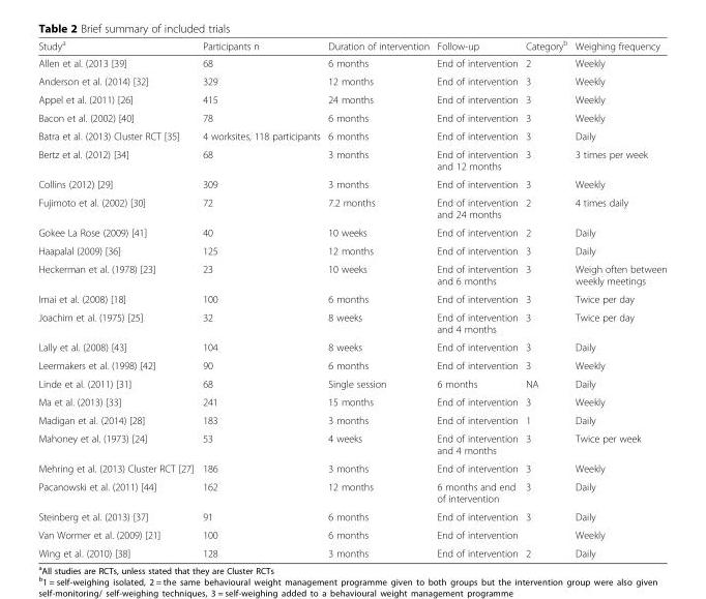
<table><thead><tr><td>Study<sup>a</sup></td><td>Participants n</td><td>Duration of intervention</td><td>Follow-up</td><td>Category<sup>b</sup></td><td>Weighing frequency</td></tr></thead><tbody><tr><td>Allen et al. (2013 [39]</td><td>68</td><td>6 months</td><td>End of intervention</td><td>2</td><td>Weekly</td></tr><tr><td>Anderson et al. (2014) [32]</td><td>329</td><td>12 months</td><td>End of intervention</td><td>3</td><td>Weekly</td></tr><tr><td>Appel et al. (2011) [26]</td><td>415</td><td>24 months</td><td>End of intervention</td><td>3</td><td>Weekly</td></tr><tr><td>Bacon et al. (2002) [40]</td><td>78</td><td>6 months</td><td>End of intervention</td><td>3</td><td>Weekly</td></tr><tr><td>Batra et al. (2013) Cluster RCT [35]</td><td>4 worksites, 118 participants</td><td>6 months</td><td>End of intervention</td><td>3</td><td>Daily</td></tr><tr><td>Bertz et al. (2012) [34]</td><td>68</td><td>3 months</td><td>End of intervention and 12 months</td><td>3</td><td>3 times per week</td></tr><tr><td>Collins (2012) [29]</td><td>309</td><td>3 months</td><td>End of intervention</td><td>3</td><td>Weekly</td></tr><tr><td>Fujimoto et al. (2002) [30]</td><td>72</td><td>7.2 months</td><td>End of intervention and 24 months</td><td>2</td><td>4 times daily</td></tr><tr><td>Gokee La Rose (2009) [41]</td><td>40</td><td>10 weeks</td><td>End of intervention</td><td>2</td><td>Daily</td></tr><tr><td>Haapalal (2009) [36]</td><td>125</td><td>12 months</td><td>End of intervention</td><td>3</td><td>Daily</td></tr><tr><td>Heckerman et al. (1978) [23]</td><td>23</td><td>10 weeks</td><td>End of intervention and 6 months</td><td>3</td><td>Weigh often between weekly meetings</td></tr><tr><td>Imai et al. (2008) [18]</td><td>100</td><td>6 months</td><td>End of intervention</td><td>3</td><td>Twice per day</td></tr><tr><td>Joachim et al. (1975) [25]</td><td>32</td><td>8 weeks</td><td>End of intervention and 4 months</td><td>3</td><td>Twice per day</td></tr><tr><td>Lally et al. (2008) [43]</td><td>104</td><td>8 weeks</td><td>End of intervention</td><td>3</td><td>Daily</td></tr><tr><td>Leermakers et al. (1998) [42]</td><td>90</td><td>6 months</td><td>End of intervention</td><td>3</td><td>Weekly</td></tr><tr><td>Linde et al. (2011) [31]</td><td>68</td><td>Single session</td><td>6 months</td><td>NA</td><td>Daily</td></tr><tr><td>Ma et al. (2013) [33]</td><td>241</td><td>15 months</td><td>End of intervention</td><td>3</td><td>Weekly</td></tr><tr><td>Madigan et al. (2014) [28]</td><td>183</td><td>3 months</td><td>End of intervention</td><td>1</td><td>Daily</td></tr><tr><td>Mahoney et al. (1973) [24]</td><td>53</td><td>4 weeks</td><td>End of intervention and 4 months</td><td>3</td><td>Twice per week</td></tr><tr><td>Mehring et al. (2013) Cluster RCT [27]</td><td>186</td><td>3 months</td><td>End of intervention</td><td>3</td><td>Weekly</td></tr><tr><td>Pacanowski et al. (2011) [44]</td><td>162</td><td>12 months</td><td>6 months and end of intervention</td><td>3</td><td>Daily</td></tr><tr><td>Steinberg et al. (2013) [37]</td><td>91</td><td>6 months</td><td>End of intervention</td><td>3</td><td>Daily</td></tr><tr><td>Van Wormer et al. (2009) [21]</td><td>100</td><td>6 months</td><td>End of intervention</td><td></td><td>Weekly</td></tr><tr><td>Wing et al. (2010) [38]</td><td>128</td><td>3 months</td><td>End of intervention</td><td>2</td><td>Daily</td></tr></tbody></table>